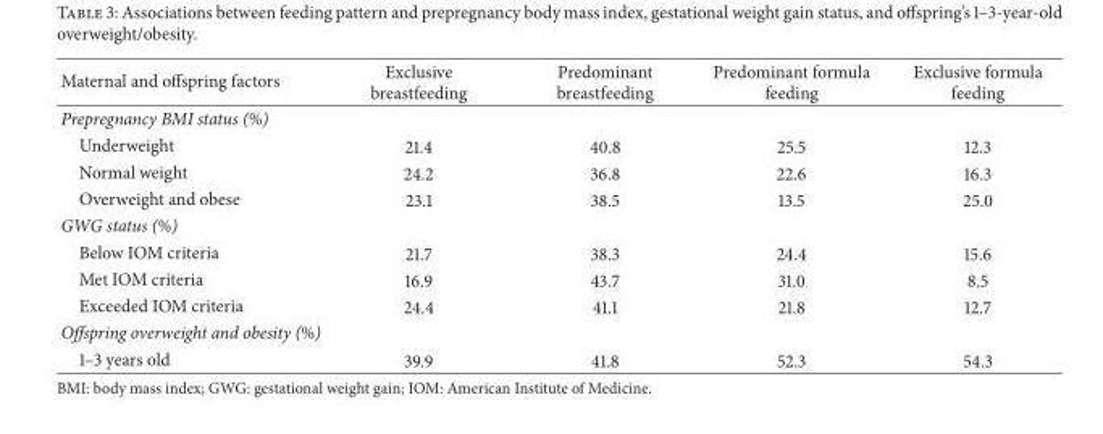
<table><thead><tr><td>Maternal and offspring factors</td><td>Exclusive breastfeeding</td><td>Predominant breastfeeding</td><td>Predominant formula feeding</td><td>Exclusive formula feeding</td></tr></thead><tbody><tr><td colspan="5">Prepregnancy BMI status (%)</td></tr><tr><td>Underweight</td><td>21.4</td><td>40.8</td><td>25.5</td><td>12.3</td></tr><tr><td>Normal weight</td><td>24.2</td><td>36.8</td><td>22.6</td><td>16.3</td></tr><tr><td>Overweight and obese</td><td>23.1</td><td>38.5</td><td>13.5</td><td>25.0</td></tr><tr><td colspan="5">GWG status (%)</td></tr><tr><td>Below IOM criteria</td><td>21.7</td><td>38.3</td><td>24.4</td><td>15.6</td></tr><tr><td>Met IOM criteria</td><td>16.9</td><td>43.7</td><td>31.0</td><td>8.5</td></tr><tr><td>Exceeded IOM criteria</td><td>24.4</td><td>41.1</td><td>21.8</td><td>12.7</td></tr><tr><td colspan="5">Offspring overweight and obesity (%)</td></tr><tr><td>1–3 years old</td><td>39.9</td><td>41.8</td><td>52.3</td><td>54.3</td></tr></tbody></table>